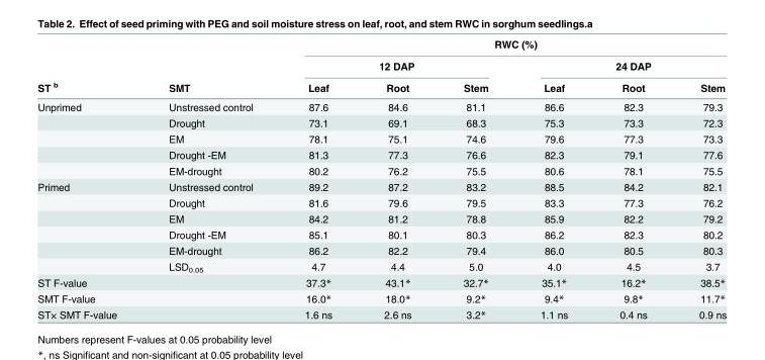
<table><thead><tr><td rowspan="3">ST <sup>b</sup></td><td rowspan="3">SMT</td><td colspan="6">RWC (%)</td></tr><tr><td colspan="3">12 DAP</td><td colspan="3">24 DAP</td></tr><tr><td>Leaf</td><td>Root</td><td>Stem</td><td>Leaf</td><td>Root</td><td>Stem</td></tr></thead><tbody><tr><td rowspan="5">Unprimed</td><td>Unstressed control</td><td>87.6</td><td>84.6</td><td>81.1</td><td>86.6</td><td>82.3</td><td>79.3</td></tr><tr><td>Drought</td><td>73.1</td><td>69.1</td><td>68.3</td><td>75.3</td><td>73.3</td><td>72.3</td></tr><tr><td>EM</td><td>78.1</td><td>75.1</td><td>74.6</td><td>79.6</td><td>77.3</td><td>73.3</td></tr><tr><td>Drought -EM</td><td>81.3</td><td>77.3</td><td>76.6</td><td>82.3</td><td>79.1</td><td>77.6</td></tr><tr><td>EM-drought</td><td>80.2</td><td>76.2</td><td>75.5</td><td>80.6</td><td>78.1</td><td>75.5</td></tr><tr><td rowspan="6">Primed</td><td>Unstressed control</td><td>89.2</td><td>87.2</td><td>83.2</td><td>88.5</td><td>84.2</td><td>82.1</td></tr><tr><td>Drought</td><td>81.6</td><td>79.6</td><td>79.5</td><td>83.3</td><td>77.3</td><td>76.2</td></tr><tr><td>EM</td><td>84.2</td><td>81.2</td><td>78.8</td><td>85.9</td><td>82.2</td><td>79.2</td></tr><tr><td>Drought -EM</td><td>85.1</td><td>80.1</td><td>80.3</td><td>86.2</td><td>82.3</td><td>80.2</td></tr><tr><td>EM-drought</td><td>86.2</td><td>82.2</td><td>79.4</td><td>86.0</td><td>80.5</td><td>80.3</td></tr><tr><td>LSD<sub>0.05</sub></td><td>4.7</td><td>4.4</td><td>5.0</td><td>4.0</td><td>4.5</td><td>3.7</td></tr><tr><td>ST F-value</td><td></td><td>37.3*</td><td>43.1*</td><td>32.7*</td><td>35.1*</td><td>16.2*</td><td>38.5*</td></tr><tr><td>SMT F-value</td><td></td><td>16.0*</td><td>18.0*</td><td>9.2*</td><td>9.4*</td><td>9.8*</td><td>11.7*</td></tr><tr><td>ST× SMT F-value</td><td></td><td>1.6 ns</td><td>2.6 ns</td><td>3.2*</td><td>1.1 ns</td><td>0.4 ns</td><td>0.9 ns</td></tr></tbody></table>